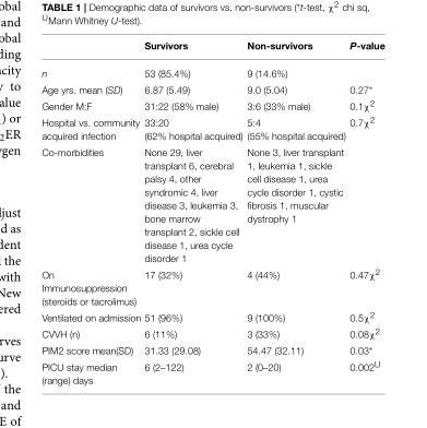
<table><thead><tr><td></td><td>Survivors</td><td>Non-survivors</td><td>P-value</td></tr></thead><tbody><tr><td>n</td><td>53 (85.4%)</td><td>9 (14.6%)</td><td></td></tr><tr><td>Age yrs. mean (SD)</td><td>6.87 (5.49)</td><td>9.0 (5.04)</td><td>0.27*</td></tr><tr><td>Gender M:F</td><td>31:22 (58% male)</td><td>3:6 (33% male)</td><td>0.1χ<sup>2</sup></td></tr><tr><td>Hospital vs. community acquired infection</td><td>33:20 (62% hospital acquired)</td><td>5:4 (55% hospital acquired)</td><td>0.7χ<sup>2</sup></td></tr><tr><td>Co-morbidities</td><td>None 29, liver transplant 6, cerebral palsy 4, other syndromic 4, liver disease 3, leukemia 3, bone marrow transplant 2, sickle cell disease 1, urea cycle disorder 1</td><td>None 3, liver transplant 1, leukemia 1, sickle cell disease 1, urea cycle disorder 1, cystic fibrosis 1, muscular dystrophy 1</td><td></td></tr><tr><td>On Immunosuppression (steroids or tacrolimus)</td><td>17 (32%)</td><td>4 (44%)</td><td>0.47χ<sup>2</sup></td></tr><tr><td>Ventilated on admission</td><td>51 (96%)</td><td>9 (100%)</td><td>0.5χ<sup>2</sup></td></tr><tr><td>CVVH (n)</td><td>6 (11%)</td><td>3 (33%)</td><td>0.08χ<sup>2</sup></td></tr><tr><td>PIM2 score mean(SD)</td><td>31.33 (29.08)</td><td>54.47 (32.11)</td><td>0.03*</td></tr><tr><td>PICU stay median (range) days</td><td>6 (2–122)</td><td>2 (0–20)</td><td>0.002<sup>U</sup></td></tr></tbody></table>